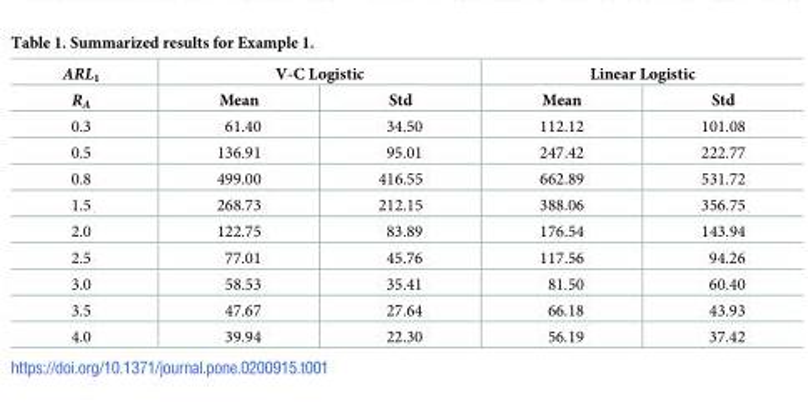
<table><thead><tr><td rowspan="2">ARL<sub>1</sub> R<sub>A</sub></td><td colspan="2">V-C Logistic</td><td colspan="2">Linear Logistic</td></tr><tr><td>Mean</td><td>Std</td><td>Mean</td><td>Std</td></tr></thead><tbody><tr><td>0.3</td><td>61.40</td><td>34.50</td><td>112.12</td><td>101.08</td></tr><tr><td>0.5</td><td>136.91</td><td>95.01</td><td>247.42</td><td>222.77</td></tr><tr><td>0.8</td><td>499.00</td><td>416.55</td><td>662.89</td><td>531.72</td></tr><tr><td>1.5</td><td>268.73</td><td>212.15</td><td>388.06</td><td>356.75</td></tr><tr><td>2.0</td><td>122.75</td><td>83.89</td><td>176.54</td><td>143.94</td></tr><tr><td>2.5</td><td>77.01</td><td>45.76</td><td>117.56</td><td>94.26</td></tr><tr><td>3.0</td><td>58.53</td><td>35.41</td><td>81.50</td><td>60.40</td></tr><tr><td>3.5</td><td>47.67</td><td>27.64</td><td>66.18</td><td>43.93</td></tr><tr><td>4.0</td><td>39.94</td><td>22.30</td><td>56.19</td><td>37.42</td></tr></tbody></table>